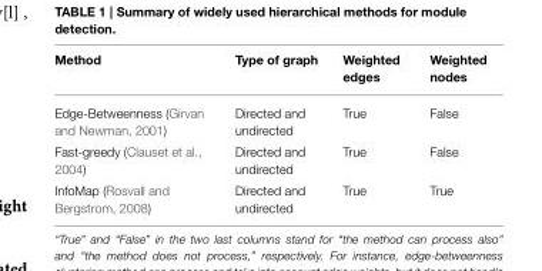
<table><thead><tr><td>Method</td><td>Type of graph</td><td>Weighted edges</td><td>Weighted nodes</td></tr></thead><tbody><tr><td>Edge-Betweenness (Girvan and Newman, 2001)</td><td>Directed and undirected</td><td>True</td><td>False</td></tr><tr><td>Fast-greedy (Clauset et al., 2004)</td><td>Directed and undirected</td><td>True</td><td>False</td></tr><tr><td>InfoMap (Rosvall and Bergstrom, 2008)</td><td>Directed and undirected</td><td>True</td><td>True</td></tr></tbody></table>